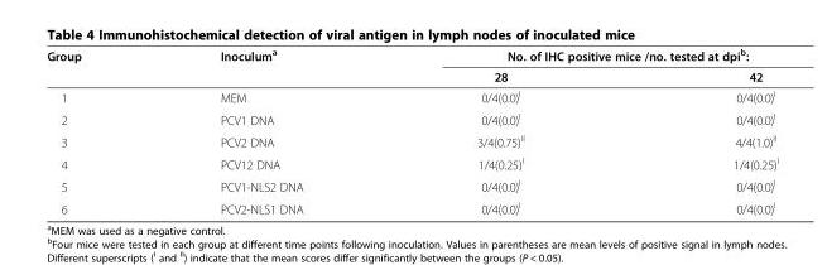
<table><thead><tr><td rowspan="2">Group</td><td rowspan="2">Inoculum<sup>a</sup></td><td colspan="2">No. of IHC positive mice /no. tested at dpi<sup>b</sup>:</td></tr><tr><td>28</td><td>42</td></tr></thead><tbody><tr><td>1</td><td>MEM</td><td>0/4(0.0)<sup>I</sup></td><td>0/4(0.0)<sup>I</sup></td></tr><tr><td>2</td><td>PCV1 DNA</td><td>0/4(0.0)<sup>I</sup></td><td>0/4(0.0)<sup>I</sup></td></tr><tr><td>3</td><td>PCV2 DNA</td><td>3/4(0.75)<sup>II</sup></td><td>4/4(1.0)<sup>II</sup></td></tr><tr><td>4</td><td>PCV12 DNA</td><td>1/4(0.25)<sup>I</sup></td><td>1/4(0.25)<sup>I</sup></td></tr><tr><td>5</td><td>PCV1-NLS2 DNA</td><td>0/4(0.0)<sup>I</sup></td><td>0/4(0.0)<sup>I</sup></td></tr><tr><td>6</td><td>PCV2-NLS1 DNA</td><td>0/4(0.0)<sup>I</sup></td><td>0/4(0.0)<sup>I</sup></td></tr></tbody></table>